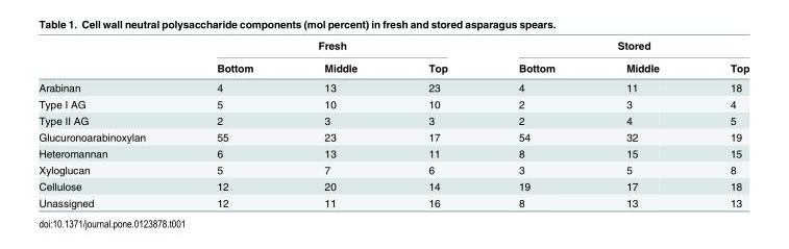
<table><thead><tr><td rowspan="2"></td><td colspan="3">Fresh</td><td colspan="3">Stored</td></tr><tr><td>Bottom</td><td>Middle</td><td>Top</td><td>Bottom</td><td>Middle</td><td>Top</td></tr></thead><tbody><tr><td>Arabinan</td><td>4</td><td>13</td><td>23</td><td>4</td><td>11</td><td>18</td></tr><tr><td>Type I AG</td><td>5</td><td>10</td><td>10</td><td>2</td><td>3</td><td>4</td></tr><tr><td>Type II AG</td><td>2</td><td>3</td><td>3</td><td>2</td><td>4</td><td>5</td></tr><tr><td>Glucuronoarabinoxylan</td><td>55</td><td>23</td><td>17</td><td>54</td><td>32</td><td>19</td></tr><tr><td>Heteromannan</td><td>6</td><td>13</td><td>11</td><td>8</td><td>15</td><td>15</td></tr><tr><td>Xyloglucan</td><td>5</td><td>7</td><td>6</td><td>3</td><td>5</td><td>8</td></tr><tr><td>Cellulose</td><td>12</td><td>20</td><td>14</td><td>19</td><td>17</td><td>18</td></tr><tr><td>Unassigned</td><td>12</td><td>11</td><td>16</td><td>8</td><td>13</td><td>13</td></tr></tbody></table>